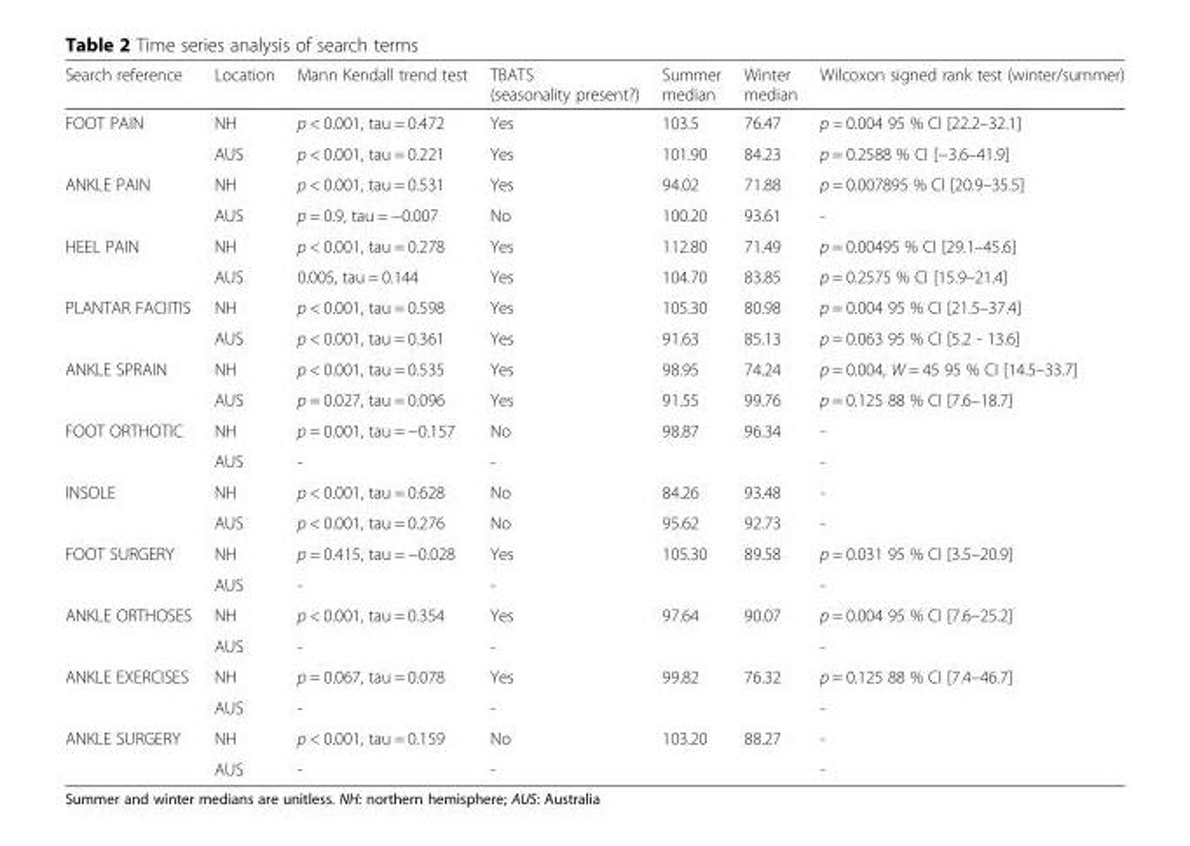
<table><thead><tr><td>Search reference</td><td>Location</td><td>Mann Kendall trend test</td><td>TBATS (seasonality present?)</td><td>Summer median</td><td>Winter median</td><td>Wilcoxon signed rank test (winter/summer)</td></tr></thead><tbody><tr><td rowspan="2">FOOT PAIN</td><td>NH</td><td>p &lt; 0.001, tau = 0.472</td><td>Yes</td><td>103.5</td><td>76.47</td><td>p = 0.004 95 % CI [22.2–32.1]</td></tr><tr><td>AUS</td><td>p &lt; 0.001, tau = 0.221</td><td>Yes</td><td>101.90</td><td>84.23</td><td>p = 0.2588 % CI [−3.6–41.9]</td></tr><tr><td rowspan="2">ANKLE PAIN</td><td>NH</td><td>p &lt; 0.001, tau = 0.531</td><td>Yes</td><td>94.02</td><td>71.88</td><td>p = 0.007895 % CI [20.9–35.5]</td></tr><tr><td>AUS</td><td>p = 0.9, tau = −0.007</td><td>No</td><td>100.20</td><td>93.61</td><td>-</td></tr><tr><td rowspan="2">HEEL PAIN</td><td>NH</td><td>p &lt; 0.001, tau = 0.278</td><td>Yes</td><td>112.80</td><td>71.49</td><td>p = 0.00495 % CI [29.1–45.6]</td></tr><tr><td>AUS</td><td>0.005, tau = 0.144</td><td>Yes</td><td>104.70</td><td>83.85</td><td>p = 0.2575 % CI [15.9–21.4]</td></tr><tr><td rowspan="2">PLANTAR FACIITIS</td><td>NH</td><td>p &lt; 0.001, tau = 0.598</td><td>Yes</td><td>105.30</td><td>80.98</td><td>p = 0.004 95 % CI [21.5–37.4]</td></tr><tr><td>AUS</td><td>p &lt; 0.001, tau = 0.361</td><td>Yes</td><td>91.63</td><td>85.13</td><td>p = 0.063 95 % CI [5.2 - 13.6]</td></tr><tr><td rowspan="2">ANKLE SPRAIN</td><td>NH</td><td>p &lt; 0.001, tau = 0.535</td><td>Yes</td><td>98.95</td><td>74.24</td><td>p = 0.004, W = 45 95 % CI [14.5–33.7]</td></tr><tr><td>AUS</td><td>p = 0.027, tau = 0.096</td><td>Yes</td><td>91.55</td><td>99.76</td><td>p = 0.125 88 % CI [7.6–18.7]</td></tr><tr><td rowspan="2">FOOT ORTHOTIC</td><td>NH</td><td>p = 0.001, tau = −0.157</td><td>No</td><td>98.87</td><td>96.34</td><td>-</td></tr><tr><td>AUS</td><td>-</td><td>-</td><td></td><td></td><td>-</td></tr><tr><td rowspan="2">INSOLE</td><td>NH</td><td>p &lt; 0.001, tau = 0.628</td><td>No</td><td>84.26</td><td>93.48</td><td>-</td></tr><tr><td>AUS</td><td>p &lt; 0.001, tau = 0.276</td><td>No</td><td>95.62</td><td>92.73</td><td>-</td></tr><tr><td rowspan="2">FOOT SURGERY</td><td>NH</td><td>p = 0.415, tau = −0.028</td><td>Yes</td><td>105.30</td><td>89.58</td><td>p = 0.031 95 % CI [3.5–20.9]</td></tr><tr><td>AUS</td><td>-</td><td>-</td><td></td><td></td><td>-</td></tr><tr><td rowspan="2">ANKLE ORTHOSES</td><td>NH</td><td>p &lt; 0.001, tau = 0.354</td><td>Yes</td><td>97.64</td><td>90.07</td><td>p = 0.004 95 % CI [7.6–25.2]</td></tr><tr><td>AUS</td><td>-</td><td>-</td><td></td><td></td><td>-</td></tr><tr><td rowspan="2">ANKLE EXERCISES</td><td>NH</td><td>p = 0.067, tau = 0.078</td><td>Yes</td><td>99.82</td><td>76.32</td><td>p = 0.125 88 % CI [7.4–46.7]</td></tr><tr><td>AUS</td><td>-</td><td>-</td><td></td><td></td><td>-</td></tr><tr><td rowspan="2">ANKLE SURGERY</td><td>NH</td><td>p &lt; 0.001, tau = 0.159</td><td>No</td><td>103.20</td><td>88.27</td><td>-</td></tr><tr><td>AUS</td><td>-</td><td>-</td><td></td><td></td><td>-</td></tr></tbody></table>